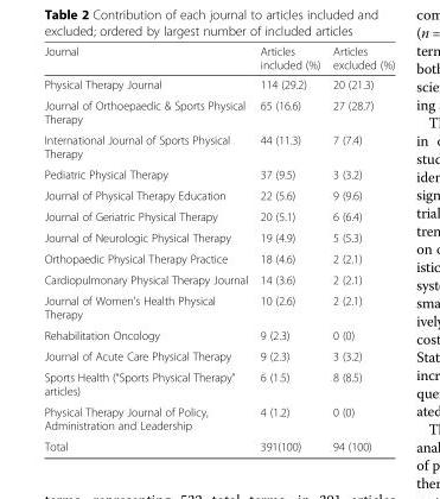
<table><thead><tr><td>Journal</td><td>Articles included (%)</td><td>Articles excluded (%)</td></tr></thead><tbody><tr><td>Physical Therapy Journal</td><td>114 (29.2)</td><td>20 (21.3)</td></tr><tr><td>Journal of Orthoepaedic &amp; Sports Physical Therapy</td><td>65 (16.6)</td><td>27 (28.7)</td></tr><tr><td>International Journal of Sports Physical Therapy</td><td>44 (11.3)</td><td>7 (7.4)</td></tr><tr><td>Pediatric Physical Therapy</td><td>37 (9.5)</td><td>3 (3.2)</td></tr><tr><td>Journal of Physical Therapy Education</td><td>22 (5.6)</td><td>9 (9.6)</td></tr><tr><td>Journal of Geriatric Physical Therapy</td><td>20 (5.1)</td><td>6 (6.4)</td></tr><tr><td>Journal of Neurologic Physical Therapy</td><td>19 (4.9)</td><td>5 (5.3)</td></tr><tr><td>Orthopaedic Physical Therapy Practice</td><td>18 (4.6)</td><td>2 (2.1)</td></tr><tr><td>Cardiopulmonary Physical Therapy Journal</td><td>14 (3.6)</td><td>2 (2.1)</td></tr><tr><td>Journal of Women&#x27;s Health Physical Therapy</td><td>10 (2.6)</td><td>2 (2.1)</td></tr><tr><td>Rehabilitation Oncology</td><td>9 (2.3)</td><td>0 (0)</td></tr><tr><td>Journal of Acute Care Physical Therapy</td><td>9 (2.3)</td><td>3 (3.2)</td></tr><tr><td>Sports Health (“Sports Physical Therapy” articles)</td><td>6 (1.5)</td><td>8 (8.5)</td></tr><tr><td>Physical Therapy Journal of Policy, Administration and Leadership</td><td>4 (1.2)</td><td>0 (0)</td></tr><tr><td>Total</td><td>391(100)</td><td>94 (100)</td></tr></tbody></table>